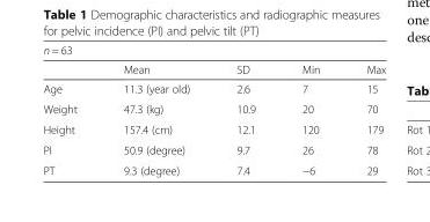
<table><thead><tr><td colspan="5">n = 63</td></tr><tr><td></td><td>Mean</td><td>SD</td><td>Min</td><td>Max</td></tr></thead><tbody><tr><td>Age</td><td>11.3 (year old)</td><td>2.6</td><td>7</td><td>15</td></tr><tr><td>Weight</td><td>47.3 (kg)</td><td>10.9</td><td>20</td><td>70</td></tr><tr><td>Height</td><td>157.4 (cm)</td><td>12.1</td><td>120</td><td>179</td></tr><tr><td>PI</td><td>50.9 (degree)</td><td>9.7</td><td>26</td><td>78</td></tr><tr><td>PT</td><td>9.3 (degree)</td><td>7.4</td><td>−6</td><td>29</td></tr></tbody></table>